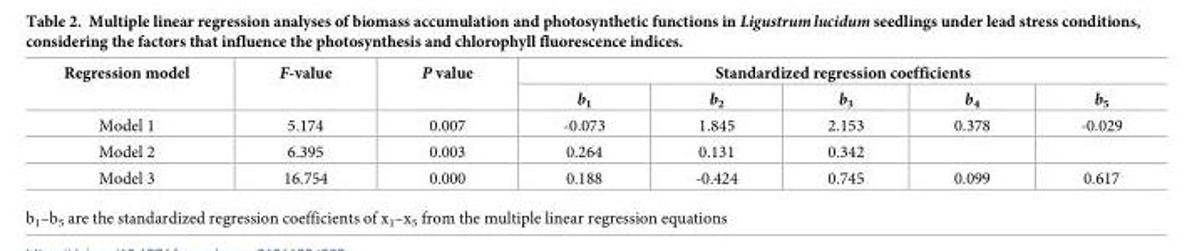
<table><thead><tr><td rowspan="2">Regression model</td><td rowspan="2">F-value</td><td rowspan="2">P value</td><td colspan="5">Standardized regression coefficients</td></tr><tr><td>b<sub>1</sub></td><td>b<sub>2</sub></td><td>b<sub>3</sub></td><td>b<sub>4</sub></td><td>b<sub>5</sub></td></tr></thead><tbody><tr><td>Model 1</td><td>5.174</td><td>0.007</td><td>-0.073</td><td>1.845</td><td>2.153</td><td>0.378</td><td>-0.029</td></tr><tr><td>Model 2</td><td>6.395</td><td>0.003</td><td>0.264</td><td>0.131</td><td>0.342</td><td></td><td></td></tr><tr><td>Model 3</td><td>16.754</td><td>0.000</td><td>0.188</td><td>-0.424</td><td>0.745</td><td>0.099</td><td>0.617</td></tr></tbody></table>